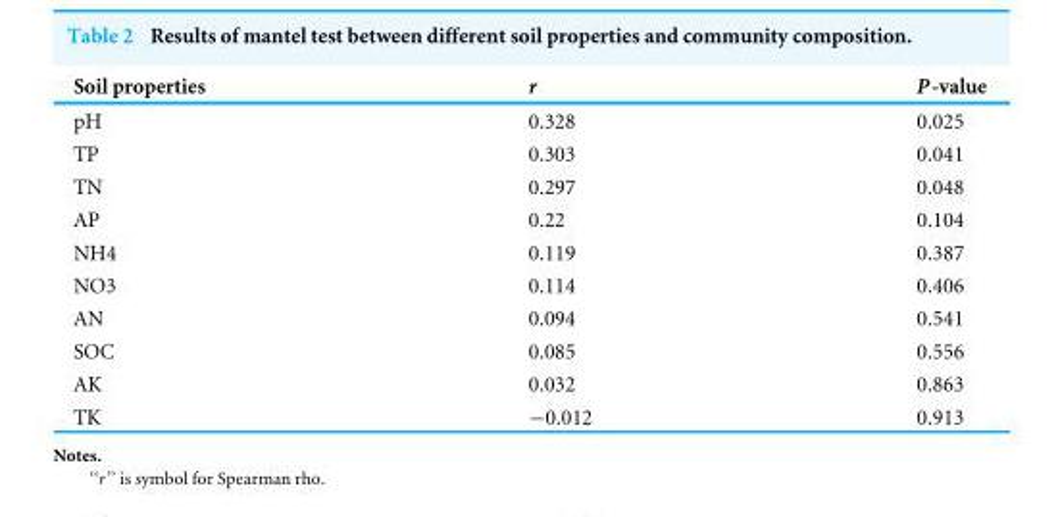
<table><thead><tr><td>Soil properties</td><td>r</td><td>P-value</td></tr></thead><tbody><tr><td>pH</td><td>0.328</td><td>0.025</td></tr><tr><td>TP</td><td>0.303</td><td>0.041</td></tr><tr><td>TN</td><td>0.297</td><td>0.048</td></tr><tr><td>AP</td><td>0.22</td><td>0.104</td></tr><tr><td>NH4</td><td>0.119</td><td>0.387</td></tr><tr><td>NO3</td><td>0.114</td><td>0.406</td></tr><tr><td>AN</td><td>0.094</td><td>0.541</td></tr><tr><td>SOC</td><td>0.085</td><td>0.556</td></tr><tr><td>AK</td><td>0.032</td><td>0.863</td></tr><tr><td>TK</td><td>−0.012</td><td>0.913</td></tr></tbody></table>